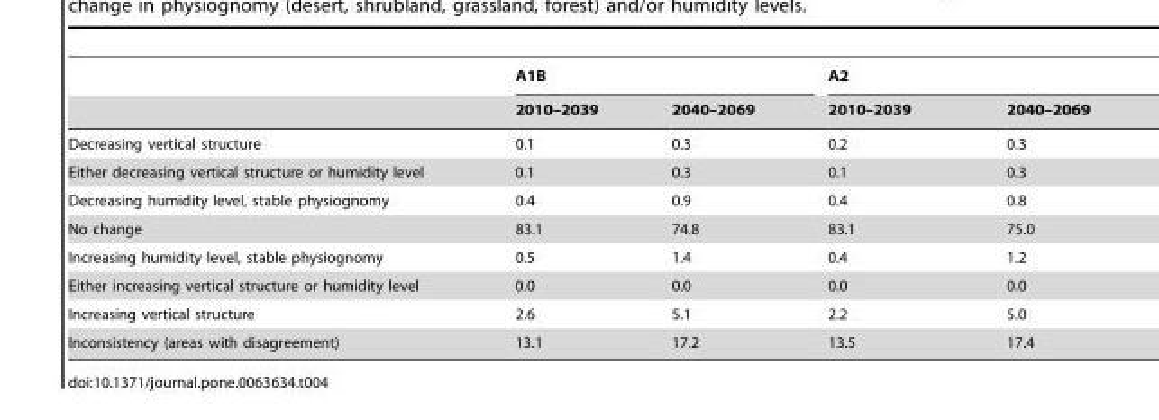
<table><thead><tr><td rowspan="2"></td><td colspan="2">A1B</td><td colspan="2">A2</td></tr><tr><td>2010–2039</td><td>2040–2069</td><td>2010–2039</td><td>2040–2069</td></tr></thead><tbody><tr><td>Decreasing vertical structure</td><td>0.1</td><td>0.3</td><td>0.2</td><td>0.3</td></tr><tr><td>Either decreasing vertical structure or humidity level</td><td>0.1</td><td>0.3</td><td>0.1</td><td>0.3</td></tr><tr><td>Decreasing humidity level, stable physiognomy</td><td>0.4</td><td>0.9</td><td>0.4</td><td>0.8</td></tr><tr><td>No change</td><td>83.1</td><td>74.8</td><td>83.1</td><td>75.0</td></tr><tr><td>Increasing humidity level, stable physiognomy</td><td>0.5</td><td>1.4</td><td>0.4</td><td>1.2</td></tr><tr><td>Either increasing vertical structure or humidity level</td><td>0.0</td><td>0.0</td><td>0.0</td><td>0.0</td></tr><tr><td>Increasing vertical structure</td><td>2.6</td><td>5.1</td><td>2.2</td><td>5.0</td></tr><tr><td>Inconsistency (areas with disagreement)</td><td>13.1</td><td>17.2</td><td>13.5</td><td>17.4</td></tr></tbody></table>